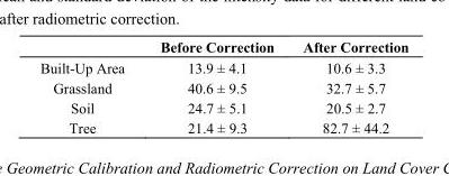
<table><thead><tr><td></td><td>Before Correction</td><td>After Correction</td></tr></thead><tbody><tr><td>Built-Up Area</td><td>13.9 ± 4.1</td><td>10.6 ± 3.3</td></tr><tr><td>Grassland</td><td>40.6 ± 9.5</td><td>32.7 ± 5.7</td></tr><tr><td>Soil</td><td>24.7 ± 5.1</td><td>20.5 ± 2.7</td></tr><tr><td>Tree</td><td>21.4 ± 9.3</td><td>82.7 ± 44.2</td></tr></tbody></table>